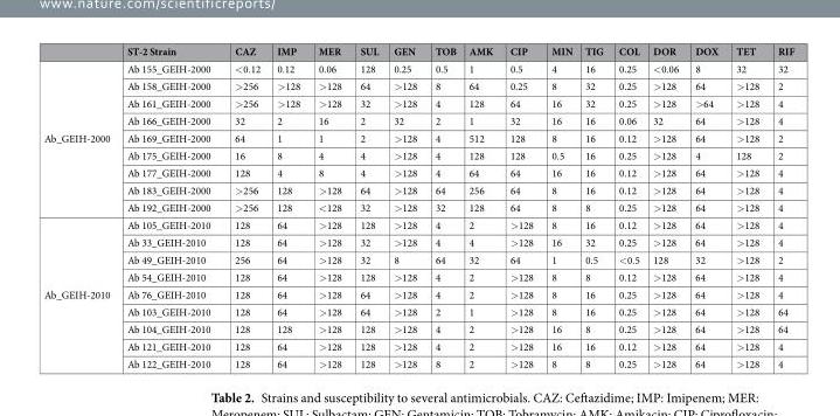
<table><thead><tr><td></td><td>ST-2 Strain</td><td>CAZ</td><td>IMP</td><td>MER</td><td>SUL</td><td>GEN</td><td>TOB</td><td>AMK</td><td>CIP</td><td>MIN</td><td>TIG</td><td>COL</td><td>DOR</td><td>DOX</td><td>TET</td><td>RIF</td></tr></thead><tbody><tr><td rowspan="9">Ab_GEIH-2000</td><td>Ab 155_GEIH-2000</td><td>&lt;0.12</td><td>0.12</td><td>0.06</td><td>128</td><td>0.25</td><td>0.5</td><td>1</td><td>0.5</td><td>4</td><td>16</td><td>0.25</td><td>&lt;0.06</td><td>8</td><td>32</td><td>32</td></tr><tr><td>Ab 158_GEIH-2000</td><td>&gt;256</td><td>&gt;128</td><td>&gt;128</td><td>64</td><td>&gt;128</td><td>8</td><td>64</td><td>0.25</td><td>8</td><td>32</td><td>0.25</td><td>&gt;128</td><td>64</td><td>&gt;128</td><td>2</td></tr><tr><td>Ab 161_GEIH-2000</td><td>&gt;256</td><td>&gt;128</td><td>&gt;128</td><td>32</td><td>&gt;128</td><td>4</td><td>128</td><td>64</td><td>16</td><td>32</td><td>0.25</td><td>&gt;128</td><td>&gt;64</td><td>&gt;128</td><td>4</td></tr><tr><td>Ab 166_GEIH-2000</td><td>32</td><td>2</td><td>16</td><td>2</td><td>32</td><td>2</td><td>1</td><td>32</td><td>16</td><td>16</td><td>0.06</td><td>32</td><td>64</td><td>&gt;128</td><td>4</td></tr><tr><td>Ab 169_GEIH-2000</td><td>64</td><td>1</td><td>1</td><td>2</td><td>&gt;128</td><td>4</td><td>512</td><td>128</td><td>8</td><td>16</td><td>0.12</td><td>&gt;128</td><td>64</td><td>&gt;128</td><td>2</td></tr><tr><td>Ab 175_GEIH-2000</td><td>16</td><td>8</td><td>4</td><td>4</td><td>&gt;128</td><td>4</td><td>128</td><td>128</td><td>0.5</td><td>16</td><td>0.25</td><td>&gt;128</td><td>4</td><td>128</td><td>2</td></tr><tr><td>Ab 177_GEIH-2000</td><td>128</td><td>4</td><td>8</td><td>4</td><td>&gt;128</td><td>4</td><td>64</td><td>64</td><td>16</td><td>16</td><td>0.12</td><td>&gt;128</td><td>64</td><td>&gt;128</td><td>4</td></tr><tr><td>Ab 183_GEIH-2000</td><td>&gt;256</td><td>128</td><td>&gt;128</td><td>64</td><td>&gt;128</td><td>64</td><td>256</td><td>64</td><td>8</td><td>16</td><td>0.12</td><td>&gt;128</td><td>64</td><td>&gt;128</td><td>4</td></tr><tr><td>Ab 192_GEIH-2000</td><td>&gt;256</td><td>128</td><td>&lt;128</td><td>32</td><td>&gt;128</td><td>32</td><td>128</td><td>64</td><td>8</td><td>8</td><td>0.25</td><td>&gt;128</td><td>64</td><td>&gt;128</td><td>4</td></tr><tr><td rowspan="9">Ab_GEIH-2010</td><td>Ab 105_GEIH-2010</td><td>128</td><td>64</td><td>&gt;128</td><td>128</td><td>&gt;128</td><td>4</td><td>2</td><td>&gt;128</td><td>8</td><td>16</td><td>0.12</td><td>&gt;128</td><td>64</td><td>&gt;128</td><td>4</td></tr><tr><td>Ab 33_GEIH-2010</td><td>128</td><td>64</td><td>&gt;128</td><td>32</td><td>&gt;128</td><td>4</td><td>4</td><td>&gt;128</td><td>16</td><td>32</td><td>0.25</td><td>&gt;128</td><td>64</td><td>&gt;128</td><td>4</td></tr><tr><td>Ab 49_GEIH-2010</td><td>256</td><td>64</td><td>&gt;128</td><td>32</td><td>8</td><td>64</td><td>32</td><td>64</td><td>1</td><td>0.5</td><td>&lt;0.5</td><td>128</td><td>32</td><td>&gt;128</td><td>2</td></tr><tr><td>Ab 54_GEIH-2010</td><td>128</td><td>64</td><td>&gt;128</td><td>128</td><td>&gt;128</td><td>4</td><td>2</td><td>&gt;128</td><td>8</td><td>8</td><td>0.12</td><td>&gt;128</td><td>64</td><td>&gt;128</td><td>4</td></tr><tr><td>Ab 76_GEIH-2010</td><td>128</td><td>64</td><td>&gt;128</td><td>64</td><td>&gt;128</td><td>4</td><td>2</td><td>&gt;128</td><td>8</td><td>16</td><td>0.25</td><td>&gt;128</td><td>64</td><td>&gt;128</td><td>4</td></tr><tr><td>Ab 103_GEIH-2010</td><td>128</td><td>64</td><td>&gt;128</td><td>64</td><td>&gt;128</td><td>2</td><td>1</td><td>&gt;128</td><td>8</td><td>16</td><td>0.25</td><td>&gt;128</td><td>64</td><td>&gt;128</td><td>64</td></tr><tr><td>Ab 104_GEIH-2010</td><td>128</td><td>128</td><td>&gt;128</td><td>128</td><td>&gt;128</td><td>4</td><td>2</td><td>&gt;128</td><td>16</td><td>8</td><td>0.25</td><td>&gt;128</td><td>64</td><td>&gt;128</td><td>64</td></tr><tr><td>Ab 121_GEIH-2010</td><td>128</td><td>64</td><td>&gt;128</td><td>128</td><td>&gt;128</td><td>4</td><td>2</td><td>&gt;128</td><td>16</td><td>16</td><td>0.12</td><td>&gt;128</td><td>64</td><td>&gt;128</td><td>4</td></tr><tr><td>Ab 122_GEIH-2010</td><td>128</td><td>64</td><td>&gt;128</td><td>128</td><td>&gt;128</td><td>8</td><td>2</td><td>&gt;128</td><td>8</td><td>8</td><td>0.25</td><td>&gt;128</td><td>64</td><td>&gt;128</td><td>4</td></tr></tbody></table>